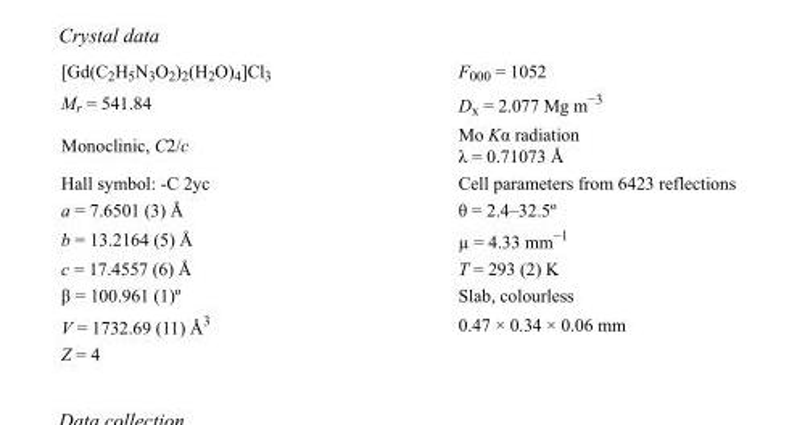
<table><tbody><tr><td>[Gd(C<sub>2</sub>H<sub>5</sub>N<sub>3</sub>O<sub>2</sub>)<sub>2</sub>(H<sub>2</sub>O)<sub>4</sub>]Cl<sub>3</sub></td><td>F<sub>000</sub> = 1052</td></tr><tr><td>M<sub>r</sub> = 541.84</td><td>D<sub>x</sub> = 2.077 Mg m<sup>−3</sup></td></tr><tr><td>Monoclinic, C2/c</td><td>Mo Kα radiation λ = 0.71073 Å</td></tr><tr><td>Hall symbol: -C 2yc</td><td>Cell parameters from 6423 reflections</td></tr><tr><td>a = 7.6501 (3) Å</td><td>θ = 2.4–32.5º</td></tr><tr><td>b = 13.2164 (5) Å</td><td>µ = 4.33 mm<sup>−1</sup></td></tr><tr><td>c = 17.4557 (6) Å</td><td>T = 293 (2) K</td></tr><tr><td>β = 100.961 (1)º</td><td>Slab, colourless</td></tr><tr><td>V = 1732.69 (11) Å<sup>3</sup></td><td>0.47 × 0.34 × 0.06 mm</td></tr><tr><td>Z = 4</td><td></td></tr></tbody></table>